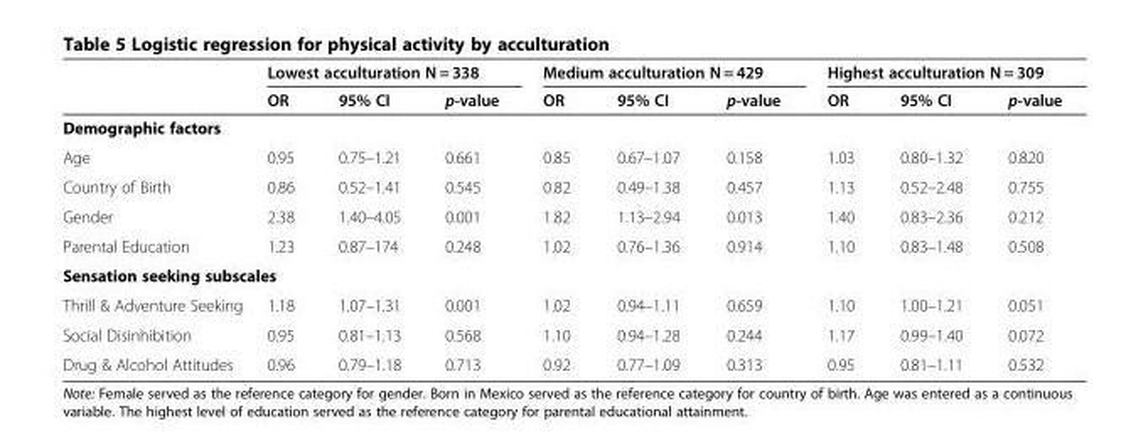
<table><thead><tr><td rowspan="2"></td><td colspan="3">Lowest acculturation N = 338</td><td colspan="3">Medium acculturation N = 429</td><td colspan="3">Highest acculturation N = 309</td></tr><tr><td>OR</td><td>95% CI</td><td>p-value</td><td>OR</td><td>95% CI</td><td>p-value</td><td>OR</td><td>95% CI</td><td>p-value</td></tr></thead><tbody><tr><td colspan="10">Demographic factors</td></tr><tr><td>Age</td><td>0.95</td><td>0.75–1.21</td><td>0.661</td><td>0.85</td><td>0.67–1.07</td><td>0.158</td><td>1.03</td><td>0.80–1.32</td><td>0.820</td></tr><tr><td>Country of Birth</td><td>0.86</td><td>0.52–1.41</td><td>0.545</td><td>0.82</td><td>0.49–1.38</td><td>0.457</td><td>1.13</td><td>0.52–2.48</td><td>0.755</td></tr><tr><td>Gender</td><td>2.38</td><td>1.40–4.05</td><td>0.001</td><td>1.82</td><td>1.13–2.94</td><td>0.013</td><td>1.40</td><td>0.83–2.36</td><td>0.212</td></tr><tr><td>Parental Education</td><td>1.23</td><td>0.87–174</td><td>0.248</td><td>1.02</td><td>0.76–1.36</td><td>0.914</td><td>1.10</td><td>0.83–1.48</td><td>0.508</td></tr><tr><td colspan="10">Sensation seeking subscales</td></tr><tr><td>Thrill &amp; Adventure Seeking</td><td>1.18</td><td>1.07–1.31</td><td>0.001</td><td>1.02</td><td>0.94–1.11</td><td>0.659</td><td>1.10</td><td>1.00–1.21</td><td>0.051</td></tr><tr><td>Social Disinhibition</td><td>0.95</td><td>0.81–1.13</td><td>0.568</td><td>1.10</td><td>0.94–1.28</td><td>0.244</td><td>1.17</td><td>0.99–1.40</td><td>0.072</td></tr><tr><td>Drug &amp; Alcohol Attitudes</td><td>0.96</td><td>0.79–1.18</td><td>0.713</td><td>0.92</td><td>0.77–1.09</td><td>0.313</td><td>0.95</td><td>0.81–1.11</td><td>0.532</td></tr></tbody></table>